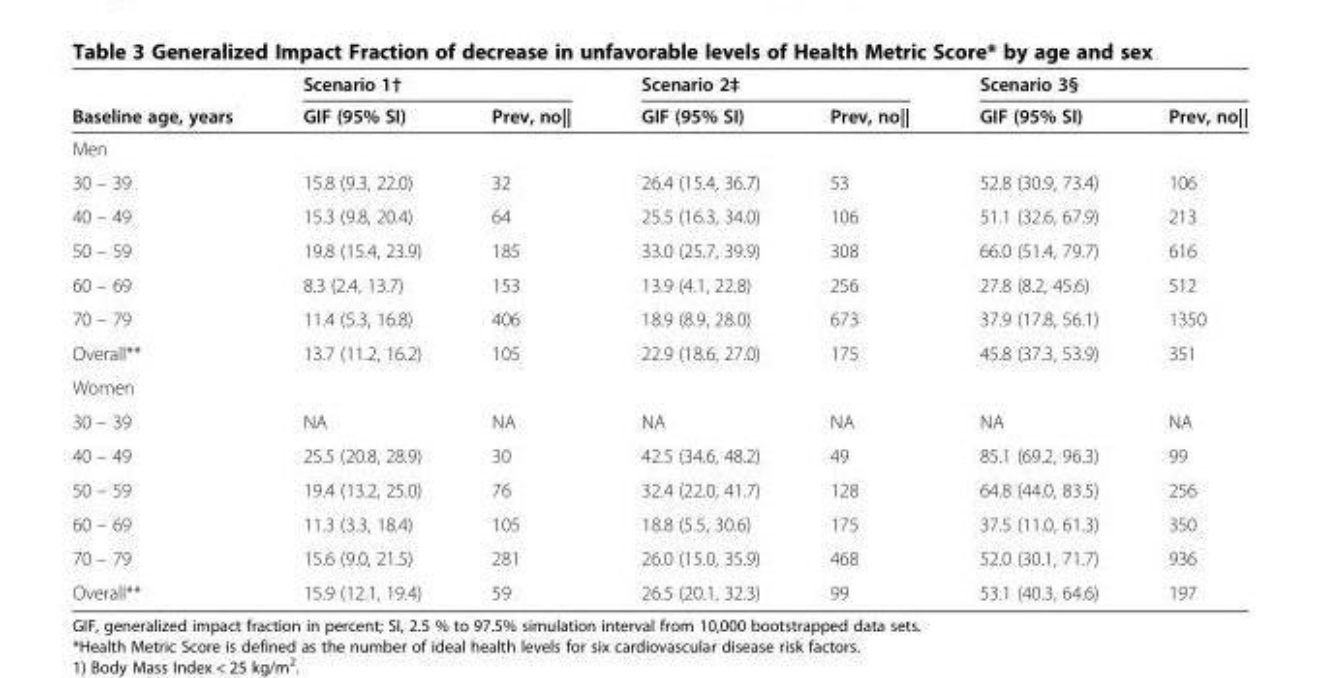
<table><thead><tr><td rowspan="2">Baseline age, years</td><td colspan="2">Scenario 1†</td><td colspan="2">Scenario 2‡</td><td colspan="2">Scenario 3§</td></tr><tr><td>GIF (95% SI)</td><td>Prev, no||</td><td>GIF (95% SI)</td><td>Prev, no||</td><td>GIF (95% SI)</td><td>Prev, no||</td></tr></thead><tbody><tr><td colspan="7">Men</td></tr><tr><td>30 – 39</td><td>15.8 (9.3, 22.0)</td><td>32</td><td>26.4 (15.4, 36.7)</td><td>53</td><td>52.8 (30.9, 73.4)</td><td>106</td></tr><tr><td>40 – 49</td><td>15.3 (9.8, 20.4)</td><td>64</td><td>25.5 (16.3, 34.0)</td><td>106</td><td>51.1 (32.6, 67.9)</td><td>213</td></tr><tr><td>50 – 59</td><td>19.8 (15.4, 23.9)</td><td>185</td><td>33.0 (25.7, 39.9)</td><td>308</td><td>66.0 (51.4, 79.7)</td><td>616</td></tr><tr><td>60 – 69</td><td>8.3 (2.4, 13.7)</td><td>153</td><td>13.9 (4.1, 22.8)</td><td>256</td><td>27.8 (8.2, 45.6)</td><td>512</td></tr><tr><td>70 – 79</td><td>11.4 (5.3, 16.8)</td><td>406</td><td>18.9 (8.9, 28.0)</td><td>673</td><td>37.9 (17.8, 56.1)</td><td>1350</td></tr><tr><td>Overall**</td><td>13.7 (11.2, 16.2)</td><td>105</td><td>22.9 (18.6, 27.0)</td><td>175</td><td>45.8 (37.3, 53.9)</td><td>351</td></tr><tr><td colspan="7">Women</td></tr><tr><td>30 – 39</td><td>NA</td><td>NA</td><td>NA</td><td>NA</td><td>NA</td><td>NA</td></tr><tr><td>40 – 49</td><td>25.5 (20.8, 28.9)</td><td>30</td><td>42.5 (34.6, 48.2)</td><td>49</td><td>85.1 (69.2, 96.3)</td><td>99</td></tr><tr><td>50 – 59</td><td>19.4 (13.2, 25.0)</td><td>76</td><td>32.4 (22.0, 41.7)</td><td>128</td><td>64.8 (44.0, 83.5)</td><td>256</td></tr><tr><td>60 – 69</td><td>11.3 (3.3, 18.4)</td><td>105</td><td>18.8 (5.5, 30.6)</td><td>175</td><td>37.5 (11.0, 61.3)</td><td>350</td></tr><tr><td>70 – 79</td><td>15.6 (9.0, 21.5)</td><td>281</td><td>26.0 (15.0, 35.9)</td><td>468</td><td>52.0 (30.1, 71.7)</td><td>936</td></tr><tr><td>Overall**</td><td>15.9 (12.1, 19.4)</td><td>59</td><td>26.5 (20.1, 32.3)</td><td>99</td><td>53.1 (40.3, 64.6)</td><td>197</td></tr></tbody></table>